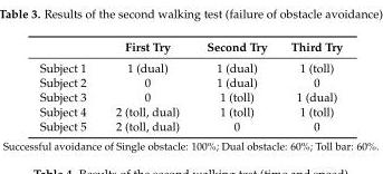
<table><thead><tr><td></td><td>First Try</td><td>Second Try</td><td>Third Try</td></tr></thead><tbody><tr><td>Subject 1</td><td>1 (dual)</td><td>1 (dual)</td><td>1 (toll)</td></tr><tr><td>Subject 2</td><td>0</td><td>1 (dual)</td><td>0</td></tr><tr><td>Subject 3</td><td>0</td><td>1 (toll)</td><td>1 (dual)</td></tr><tr><td>Subject 4</td><td>2 (toll, dual)</td><td>1 (toll)</td><td>1 (toll)</td></tr><tr><td>Subject 5</td><td>2 (toll, dual)</td><td>0</td><td>0</td></tr></tbody></table>